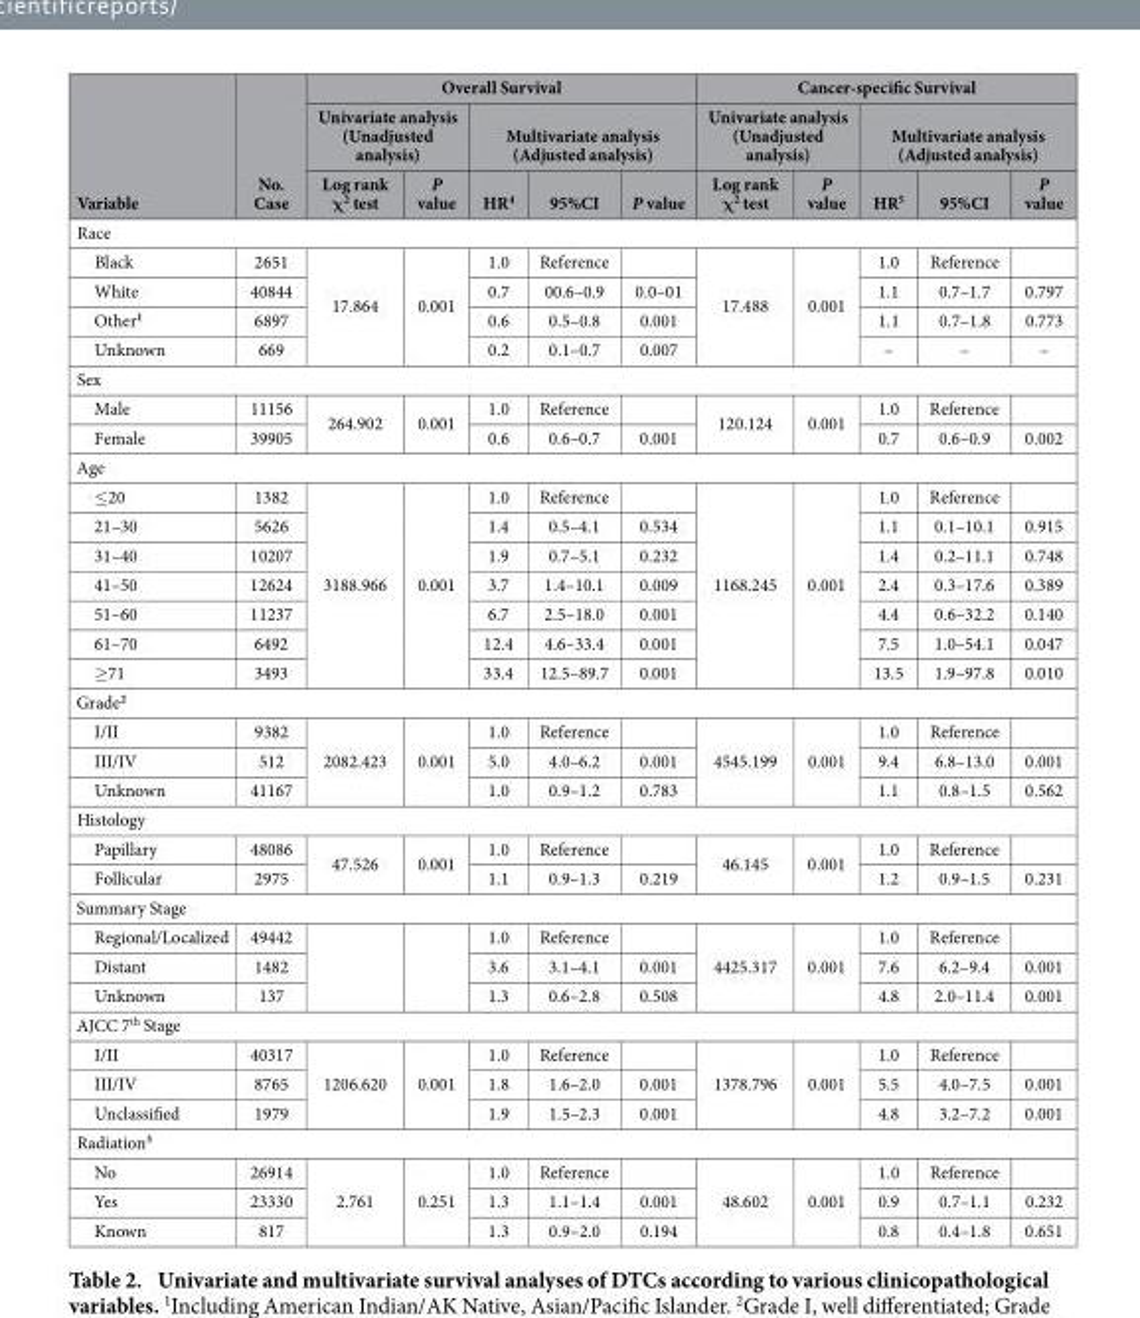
<table><thead><tr><td rowspan="3">Variable</td><td rowspan="3">No. Case</td><td colspan="5">Overall Survival</td><td colspan="5">Cancer-specific Survival</td></tr><tr><td colspan="2">Univariate analysis (Unadjusted analysis)</td><td colspan="3">Multivariate analysis (Adjusted analysis)</td><td colspan="2">Univariate analysis (Unadjusted analysis)</td><td colspan="3">Multivariate analysis (Adjusted analysis)</td></tr><tr><td>Log rank χ<sup>2</sup> test</td><td>P value</td><td>HR<sup>4</sup></td><td>95%CI</td><td>P value</td><td>Log rank χ<sup>2</sup> test</td><td>P value</td><td>HR<sup>5</sup></td><td>95%CI</td><td>P value</td></tr></thead><tbody><tr><td colspan="12">Race</td></tr><tr><td>Black</td><td>2651</td><td rowspan="4">17.864</td><td rowspan="4">0.001</td><td>1.0</td><td>Reference</td><td></td><td rowspan="4">17.488</td><td rowspan="4">0.001</td><td>1.0</td><td>Reference</td><td></td></tr><tr><td>White</td><td>40844</td><td>0.7</td><td>00.6–0.9</td><td>0.0–01</td><td>1.1</td><td>0.7–1.7</td><td>0.797</td></tr><tr><td>Other<sup>1</sup></td><td>6897</td><td>0.6</td><td>0.5–0.8</td><td>0.001</td><td>1.1</td><td>0.7–1.8</td><td>0.773</td></tr><tr><td>Unknown</td><td>669</td><td>0.2</td><td>0.1–0.7</td><td>0.007</td><td>–</td><td>–</td><td>–</td></tr><tr><td colspan="12">Sex</td></tr><tr><td>Male</td><td>11156</td><td rowspan="2">264.902</td><td rowspan="2">0.001</td><td>1.0</td><td>Reference</td><td></td><td rowspan="2">120.124</td><td rowspan="2">0.001</td><td>1.0</td><td>Reference</td><td></td></tr><tr><td>Female</td><td>39905</td><td>0.6</td><td>0.6–0.7</td><td>0.001</td><td>0.7</td><td>0.6–0.9</td><td>0.002</td></tr><tr><td colspan="12">Age</td></tr><tr><td>≤ 20</td><td>1382</td><td rowspan="7">3188.966</td><td rowspan="7">0.001</td><td>1.0</td><td>Reference</td><td></td><td rowspan="7">1168.245</td><td rowspan="7">0.001</td><td>1.0</td><td>Reference</td><td></td></tr><tr><td>21–30</td><td>5626</td><td>1.4</td><td>0.5–4.1</td><td>0.534</td><td>1.1</td><td>0.1–10.1</td><td>0.915</td></tr><tr><td>31–40</td><td>10207</td><td>1.9</td><td>0.7–5.1</td><td>0.232</td><td>1.4</td><td>0.2–11.1</td><td>0.748</td></tr><tr><td>41–50</td><td>12624</td><td>3.7</td><td>1.4–10.1</td><td>0.009</td><td>2.4</td><td>0.3–17.6</td><td>0.389</td></tr><tr><td>51–60</td><td>11237</td><td>6.7</td><td>2.5–18.0</td><td>0.001</td><td>4.4</td><td>0.6–32.2</td><td>0.140</td></tr><tr><td>61–70</td><td>6492</td><td>12.4</td><td>4.6–33.4</td><td>0.001</td><td>7.5</td><td>1.0–54.1</td><td>0.047</td></tr><tr><td>≥ 71</td><td>3493</td><td>33.4</td><td>12.5–89.7</td><td>0.001</td><td>13.5</td><td>1.9–97.8</td><td>0.010</td></tr><tr><td colspan="12">Grade<sup>2</sup></td></tr><tr><td>I/II</td><td>9382</td><td rowspan="3">2082.423</td><td rowspan="3">0.001</td><td>1.0</td><td>Reference</td><td></td><td rowspan="3">4545.199</td><td rowspan="3">0.001</td><td>1.0</td><td>Reference</td><td></td></tr><tr><td>III/IV</td><td>512</td><td>5.0</td><td>4.0–6.2</td><td>0.001</td><td>9.4</td><td>6.8–13.0</td><td>0.001</td></tr><tr><td>Unknown</td><td>41167</td><td>1.0</td><td>0.9–1.2</td><td>0.783</td><td>1.1</td><td>0.8–1.5</td><td>0.562</td></tr><tr><td colspan="12">Histology</td></tr><tr><td>Papillary</td><td>48086</td><td rowspan="2">47.526</td><td rowspan="2">0.001</td><td>1.0</td><td>Reference</td><td></td><td rowspan="2">46.145</td><td rowspan="2">0.001</td><td>1.0</td><td>Reference</td><td></td></tr><tr><td>Follicular</td><td>2975</td><td>1.1</td><td>0.9–1.3</td><td>0.219</td><td>1.2</td><td>0.9–1.5</td><td>0.231</td></tr><tr><td colspan="12">Summary Stage</td></tr><tr><td>Regional/Localized</td><td>49442</td><td rowspan="3"></td><td rowspan="3"></td><td>1.0</td><td>Reference</td><td></td><td rowspan="3">4425.317</td><td rowspan="3">0.001</td><td>1.0</td><td>Reference</td><td></td></tr><tr><td>Distant</td><td>1482</td><td>3.6</td><td>3.1–4.1</td><td>0.001</td><td>7.6</td><td>6.2–9.4</td><td>0.001</td></tr><tr><td>Unknown</td><td>137</td><td>1.3</td><td>0.6–2.8</td><td>0.508</td><td>4.8</td><td>2.0–11.4</td><td>0.001</td></tr><tr><td colspan="12">AJCC 7<sup>th</sup> Stage</td></tr><tr><td>I/II</td><td>40317</td><td rowspan="3">1206.620</td><td rowspan="3">0.001</td><td>1.0</td><td>Reference</td><td></td><td rowspan="3">1378.796</td><td rowspan="3">0.001</td><td>1.0</td><td>Reference</td><td></td></tr><tr><td>III/IV</td><td>8765</td><td>1.8</td><td>1.6–2.0</td><td>0.001</td><td>5.5</td><td>4.0–7.5</td><td>0.001</td></tr><tr><td>Unclassified</td><td>1979</td><td>1.9</td><td>1.5–2.3</td><td>0.001</td><td>4.8</td><td>3.2–7.2</td><td>0.001</td></tr><tr><td colspan="12">Radiation<sup>3</sup></td></tr><tr><td>No</td><td>26914</td><td rowspan="3">2.761</td><td rowspan="3">0.251</td><td>1.0</td><td>Reference</td><td></td><td rowspan="3">48.602</td><td rowspan="3">0.001</td><td>1.0</td><td>Reference</td><td></td></tr><tr><td>Yes</td><td>23330</td><td>1.3</td><td>1.1–1.4</td><td>0.001</td><td>0.9</td><td>0.7–1.1</td><td>0.232</td></tr><tr><td>Known</td><td>817</td><td>1.3</td><td>0.9–2.0</td><td>0.194</td><td>0.8</td><td>0.4–1.8</td><td>0.651</td></tr></tbody></table>